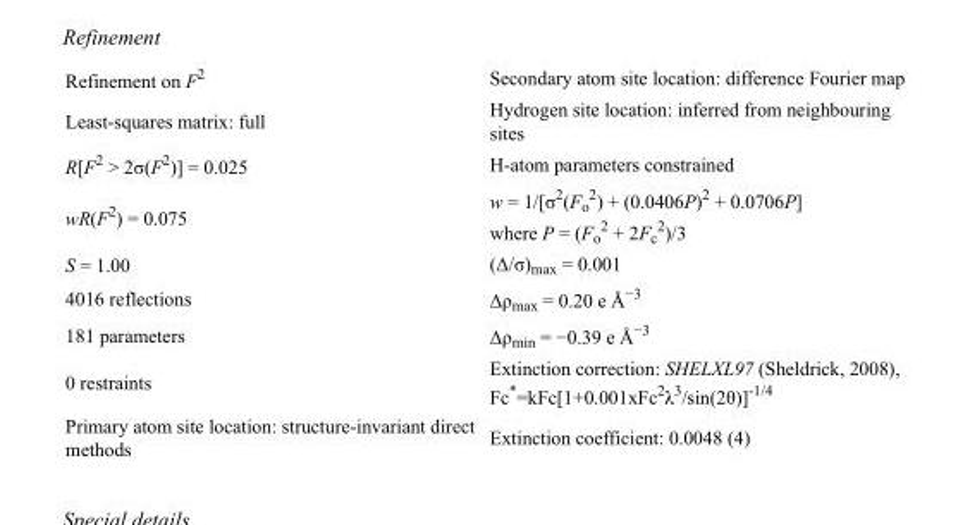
<table><tbody><tr><td>Refinement on F<sup>2</sup></td><td>Secondary atom site location: difference Fourier map</td></tr><tr><td>Least-squares matrix: full</td><td>Hydrogen site location: inferred from neighbouring sites</td></tr><tr><td>R[F<sup>2</sup> &gt; 2σ(F<sup>2</sup>)] = 0.025</td><td>H-atom parameters constrained</td></tr><tr><td>wR(F<sup>2</sup>) = 0.075</td><td>w = 1/[σ<sup>2</sup>(F<sub>o</sub> <sup>2</sup>) + (0.0406P)<sup>2</sup> + 0.0706P] where P = (F<sub>o</sub> <sup>2</sup> + 2F<sub>c</sub> <sup>2</sup>)/3</td></tr><tr><td>S = 1.00</td><td>(Δ/σ)<sub>max</sub> = 0.001</td></tr><tr><td>4016 reflections</td><td>Δρ<sub>max</sub> = 0.20 e Å<sup>−3</sup></td></tr><tr><td>181 parameters</td><td>Δρ<sub>min</sub> = −0.39 e Å<sup>−3</sup></td></tr><tr><td>0 restraints</td><td>Extinction correction: SHELXL97 (Sheldrick, 2008), Fc*=kFc[1+0.001xFc<sup>2</sup>λ<sup>3</sup>/sin(2θ)]<sup>-1/4</sup></td></tr><tr><td>Primary atom site location: structure-invariant direct methods</td><td>Extinction coefficient: 0.0048 (4)</td></tr></tbody></table>